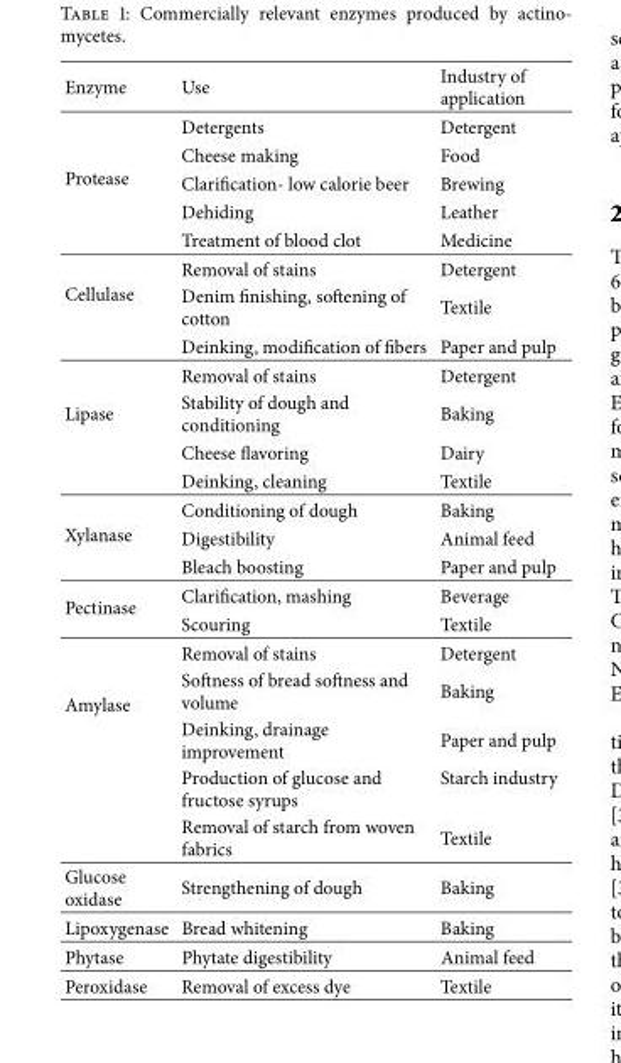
<table><thead><tr><td>Enzyme</td><td>Use</td><td>Industry of application</td></tr></thead><tbody><tr><td rowspan="5">Protease</td><td>Detergents</td><td>Detergent</td></tr><tr><td>Cheese making</td><td>Food</td></tr><tr><td>Clarification- low calorie beer</td><td>Brewing</td></tr><tr><td>Dehiding</td><td>Leather</td></tr><tr><td>Treatment of blood clot</td><td>Medicine</td></tr><tr><td rowspan="3">Cellulase</td><td>Removal of stains</td><td>Detergent</td></tr><tr><td>Denim finishing, softening of cotton</td><td>Textile</td></tr><tr><td>Deinking, modification of fibers</td><td>Paper and pulp</td></tr><tr><td rowspan="4">Lipase</td><td>Removal of stains</td><td>Detergent</td></tr><tr><td>Stability of dough and conditioning</td><td>Baking</td></tr><tr><td>Cheese flavoring</td><td>Dairy</td></tr><tr><td>Deinking, cleaning</td><td>Textile</td></tr><tr><td rowspan="3">Xylanase</td><td>Conditioning of dough</td><td>Baking</td></tr><tr><td>Digestibility</td><td>Animal feed</td></tr><tr><td>Bleach boosting</td><td>Paper and pulp</td></tr><tr><td rowspan="2">Pectinase</td><td>Clarification, mashing</td><td>Beverage</td></tr><tr><td>Scouring</td><td>Textile</td></tr><tr><td rowspan="5">Amylase</td><td>Removal of stains</td><td>Detergent</td></tr><tr><td>Softness of bread softness and volume</td><td>Baking</td></tr><tr><td>Deinking, drainage improvement</td><td>Paper and pulp</td></tr><tr><td>Production of glucose and fructose syrups</td><td>Starch industry</td></tr><tr><td>Removal of starch from woven fabrics</td><td>Textile</td></tr><tr><td>Glucose oxidase</td><td>Strengthening of dough</td><td>Baking</td></tr><tr><td>Lipoxygenase</td><td>Bread whitening</td><td>Baking</td></tr><tr><td>Phytase</td><td>Phytate digestibility</td><td>Animal feed</td></tr><tr><td>Peroxidase</td><td>Removal of excess dye</td><td>Textile</td></tr></tbody></table>